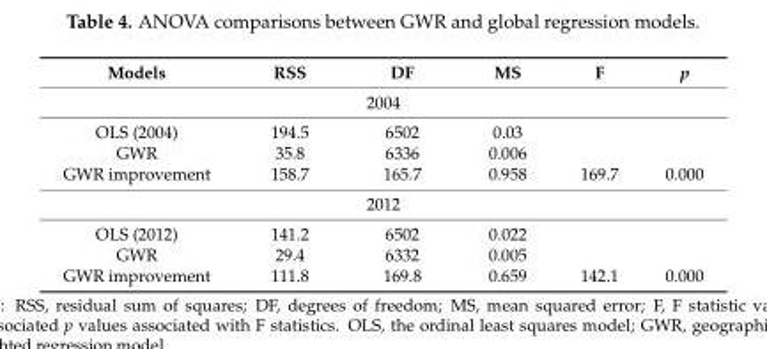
<table><thead><tr><td>Models</td><td>RSS</td><td>DF</td><td>MS</td><td>F</td><td>p</td></tr></thead><tbody><tr><td colspan="6">2004</td></tr><tr><td>OLS (2004)</td><td>194.5</td><td>6502</td><td>0.03</td><td></td><td></td></tr><tr><td>GWR</td><td>35.8</td><td>6336</td><td>0.006</td><td></td><td></td></tr><tr><td>GWR improvement</td><td>158.7</td><td>165.7</td><td>0.958</td><td>169.7</td><td>0.000</td></tr><tr><td colspan="6">2012</td></tr><tr><td>OLS (2012)</td><td>141.2</td><td>6502</td><td>0.022</td><td></td><td></td></tr><tr><td>GWR</td><td>29.4</td><td>6332</td><td>0.005</td><td></td><td></td></tr><tr><td>GWR improvement</td><td>111.8</td><td>169.8</td><td>0.659</td><td>142.1</td><td>0.000</td></tr></tbody></table>